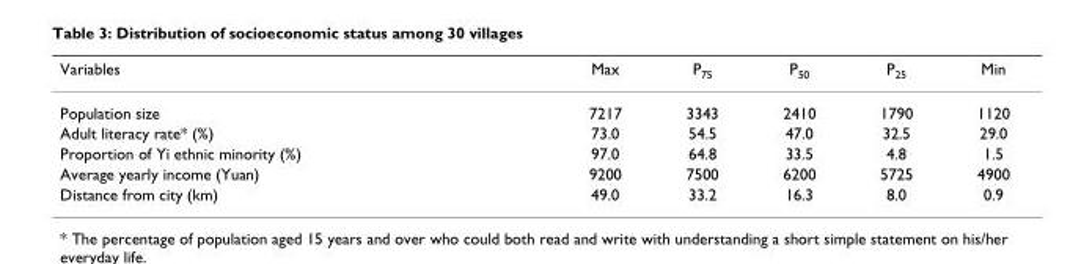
<table><thead><tr><td>Variables</td><td>Max</td><td>P<sub>75</sub></td><td>P<sub>50</sub></td><td>P<sub>25</sub></td><td>Min</td></tr></thead><tbody><tr><td>Population size</td><td>7217</td><td>3343</td><td>2410</td><td>1790</td><td>1120</td></tr><tr><td>Adult literacy rate* (%)</td><td>73.0</td><td>54.5</td><td>47.0</td><td>32.5</td><td>29.0</td></tr><tr><td>Proportion of Yi ethnic minority (%)</td><td>97.0</td><td>64.8</td><td>33.5</td><td>4.8</td><td>1.5</td></tr><tr><td>Average yearly income (Yuan)</td><td>9200</td><td>7500</td><td>6200</td><td>5725</td><td>4900</td></tr><tr><td>Distance from city (km)</td><td>49.0</td><td>33.2</td><td>16.3</td><td>8.0</td><td>0.9</td></tr></tbody></table>